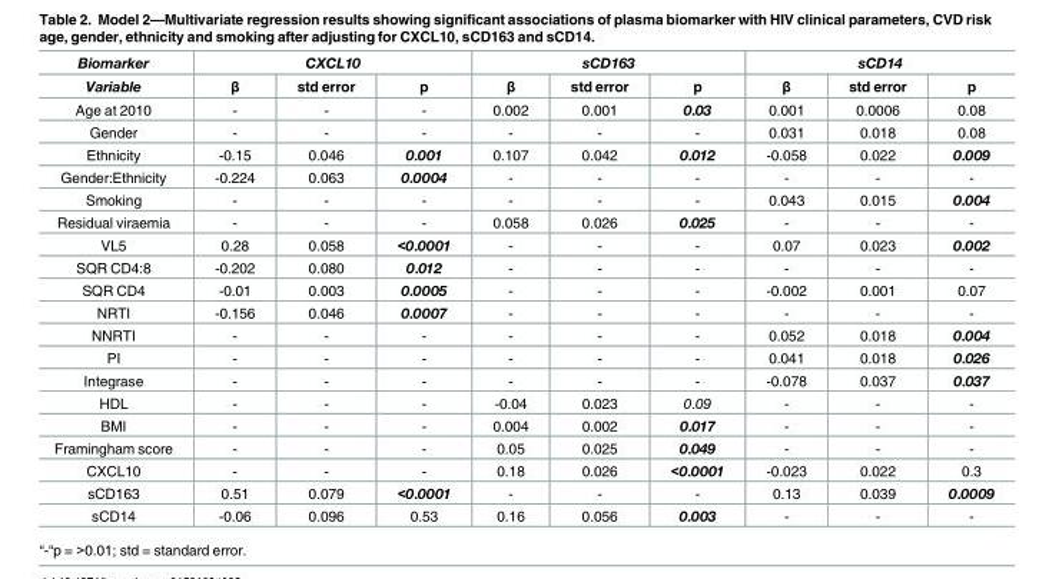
<table><thead><tr><td rowspan="2">Biomarker Variable</td><td colspan="3">CXCL10</td><td colspan="3">sCD163</td><td colspan="3">sCD14</td></tr><tr><td>β</td><td>std error</td><td>p</td><td>β</td><td>std error</td><td>p</td><td>β</td><td>std error</td><td>p</td></tr></thead><tbody><tr><td>Age at 2010</td><td>-</td><td>-</td><td>-</td><td>0.002</td><td>0.001</td><td>0.03</td><td>0.001</td><td>0.0006</td><td>0.08</td></tr><tr><td>Gender</td><td>-</td><td>-</td><td>-</td><td>-</td><td>-</td><td>-</td><td>0.031</td><td>0.018</td><td>0.08</td></tr><tr><td>Ethnicity</td><td>-0.15</td><td>0.046</td><td>0.001</td><td>0.107</td><td>0.042</td><td>0.012</td><td>-0.058</td><td>0.022</td><td>0.009</td></tr><tr><td>Gender:Ethnicity</td><td>-0.224</td><td>0.063</td><td>0.0004</td><td>-</td><td>-</td><td>-</td><td>-</td><td>-</td><td>-</td></tr><tr><td>Smoking</td><td>-</td><td>-</td><td>-</td><td>-</td><td>-</td><td>-</td><td>0.043</td><td>0.015</td><td>0.004</td></tr><tr><td>Residual viraemia</td><td>-</td><td>-</td><td>-</td><td>0.058</td><td>0.026</td><td>0.025</td><td>-</td><td>-</td><td>-</td></tr><tr><td>VL5</td><td>0.28</td><td>0.058</td><td>&lt;0.0001</td><td>-</td><td>-</td><td>-</td><td>0.07</td><td>0.023</td><td>0.002</td></tr><tr><td>SQR CD4:8</td><td>-0.202</td><td>0.080</td><td>0.012</td><td>-</td><td>-</td><td>-</td><td>-</td><td>-</td><td>-</td></tr><tr><td>SQR CD4</td><td>-0.01</td><td>0.003</td><td>0.0005</td><td>-</td><td>-</td><td>-</td><td>-0.002</td><td>0.001</td><td>0.07</td></tr><tr><td>NRTI</td><td>-0.156</td><td>0.046</td><td>0.0007</td><td>-</td><td>-</td><td>-</td><td>-</td><td>-</td><td>-</td></tr><tr><td>NNRTI</td><td>-</td><td>-</td><td>-</td><td>-</td><td>-</td><td>-</td><td>0.052</td><td>0.018</td><td>0.004</td></tr><tr><td>PI</td><td>-</td><td>-</td><td>-</td><td>-</td><td>-</td><td>-</td><td>0.041</td><td>0.018</td><td>0.026</td></tr><tr><td>Integrase</td><td>-</td><td>-</td><td>-</td><td>-</td><td>-</td><td>-</td><td>-0.078</td><td>0.037</td><td>0.037</td></tr><tr><td>HDL</td><td>-</td><td>-</td><td>-</td><td>-0.04</td><td>0.023</td><td>0.09</td><td>-</td><td>-</td><td>-</td></tr><tr><td>BMI</td><td>-</td><td>-</td><td>-</td><td>0.004</td><td>0.002</td><td>0.017</td><td>-</td><td>-</td><td>-</td></tr><tr><td>Framingham score</td><td>-</td><td>-</td><td>-</td><td>0.05</td><td>0.025</td><td>0.049</td><td>-</td><td>-</td><td>-</td></tr><tr><td>CXCL10</td><td>-</td><td>-</td><td>-</td><td>0.18</td><td>0.026</td><td>&lt;0.0001</td><td>-0.023</td><td>0.022</td><td>0.3</td></tr><tr><td>sCD163</td><td>0.51</td><td>0.079</td><td>&lt;0.0001</td><td>-</td><td>-</td><td>-</td><td>0.13</td><td>0.039</td><td>0.0009</td></tr><tr><td>sCD14</td><td>-0.06</td><td>0.096</td><td>0.53</td><td>0.16</td><td>0.056</td><td>0.003</td><td>-</td><td>-</td><td>-</td></tr></tbody></table>